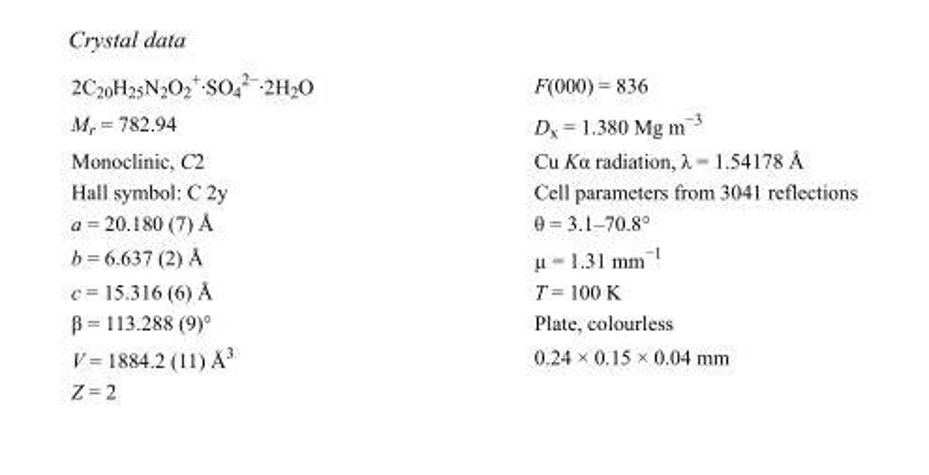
<table><tbody><tr><td>2C<sub>20</sub>H<sub>25</sub>N<sub>2</sub>O<sub>2</sub> <sup>+</sup>·SO<sub>4</sub> <sup>2−</sup>·2H<sub>2</sub>O</td><td>F(000) = 836</td></tr><tr><td>M<sub>r</sub> = 782.94</td><td>D<sub>x</sub> = 1.380 Mg m<sup>−3</sup></td></tr><tr><td>Monoclinic, C2</td><td>Cu Kα radiation, λ = 1.54178 Å</td></tr><tr><td>Hall symbol: C 2y</td><td>Cell parameters from 3041 reflections</td></tr><tr><td>a = 20.180 (7) Å</td><td>θ = 3.1–70.8°</td></tr><tr><td>b = 6.637 (2) Å</td><td>µ = 1.31 mm<sup>−1</sup></td></tr><tr><td>c = 15.316 (6) Å</td><td>T = 100 K</td></tr><tr><td>β = 113.288 (9)°</td><td>Plate, colourless</td></tr><tr><td>V = 1884.2 (11) Å<sup>3</sup></td><td>0.24 × 0.15 × 0.04 mm</td></tr><tr><td>Z = 2</td><td></td></tr></tbody></table>